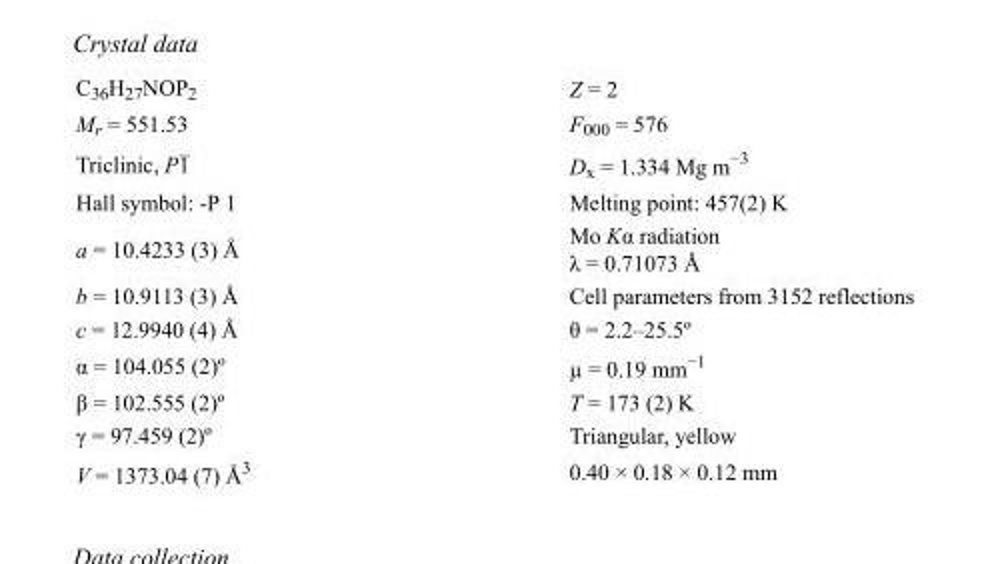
<table><tbody><tr><td>C<sub>36</sub>H<sub>27</sub>NOP<sub>2</sub></td><td>Z = 2</td></tr><tr><td>M<sub>r</sub> = 551.53</td><td>F<sub>000</sub> = 576</td></tr><tr><td>Triclinic, P1</td><td>D<sub>x</sub> = 1.334 Mg m<sup>−3</sup></td></tr><tr><td>Hall symbol: -P 1</td><td>Melting point: 457(2) K</td></tr><tr><td>a = 10.4233 (3) Å</td><td>Mo Kα radiation λ = 0.71073 Å</td></tr><tr><td>b = 10.9113 (3) Å</td><td>Cell parameters from 3152 reflections</td></tr><tr><td>c = 12.9940 (4) Å</td><td>θ = 2.2–25.5º</td></tr><tr><td>α = 104.055 (2)º</td><td>µ = 0.19 mm<sup>−1</sup></td></tr><tr><td>β = 102.555 (2)º</td><td>T = 173 (2) K</td></tr><tr><td>γ = 97.459 (2)º</td><td>Triangular, yellow</td></tr><tr><td>V = 1373.04 (7) Å<sup>3</sup></td><td>0.40 × 0.18 × 0.12 mm</td></tr></tbody></table>